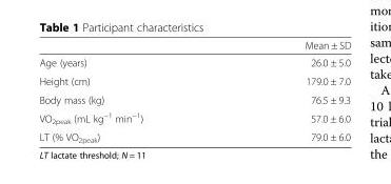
<table><thead><tr><td></td><td>Mean ± SD</td></tr></thead><tbody><tr><td>Age (years)</td><td>26.0 ± 5.0</td></tr><tr><td>Height (cm)</td><td>179.0 ± 7.0</td></tr><tr><td>Body mass (kg)</td><td>76.5 ± 9.3</td></tr><tr><td>VO2peak (mL kg−1 min−1)</td><td>57.0 ± 6.0</td></tr><tr><td>LT (% VO2peak)</td><td>79.0 ± 6.0</td></tr></tbody></table>